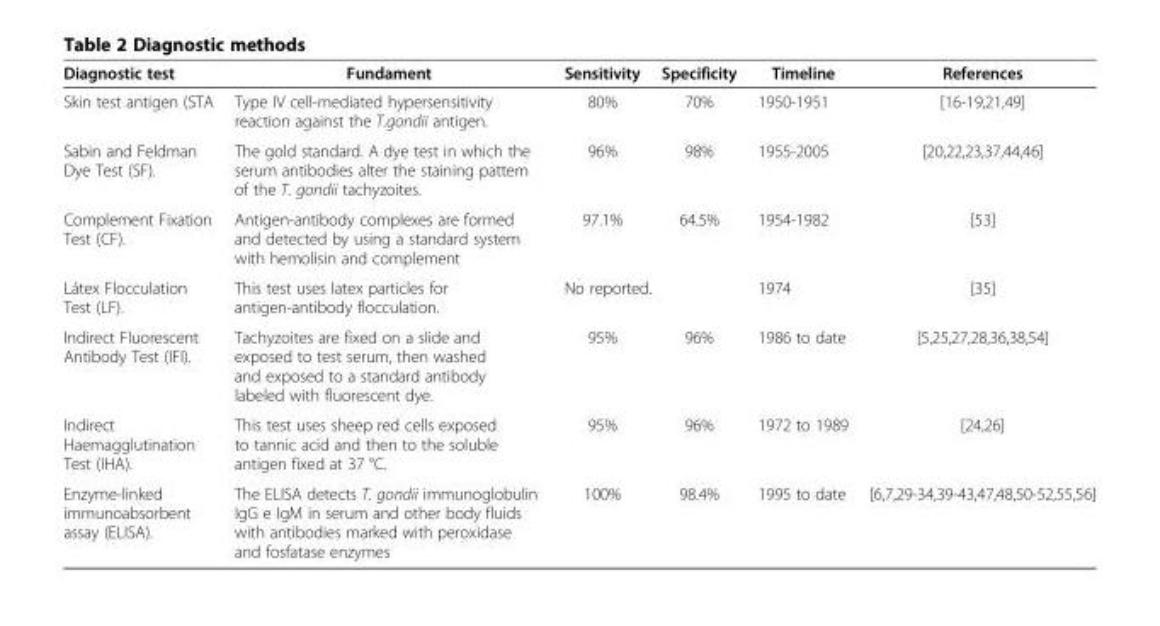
<table><thead><tr><td>Diagnostic test</td><td>Fundament</td><td>Sensitivity</td><td>Specificity</td><td>Timeline</td><td>References</td></tr></thead><tbody><tr><td>Skin test antigen (STA</td><td>Type IV cell-mediated hypersensitivity reaction against the T.gondii antigen.</td><td>80%</td><td>70%</td><td>1950-1951</td><td>[16-19,21,49]</td></tr><tr><td>Sabin and Feldman Dye Test (SF).</td><td>The gold standard. A dye test in which the serum antibodies alter the staining pattern of the T. gondii tachyzoites.</td><td>96%</td><td>98%</td><td>1955-2005</td><td>[20,22,23,37,44,46]</td></tr><tr><td>Complement Fixation Test (CF).</td><td>Antigen-antibody complexes are formed and detected by using a standard system with hemolisin and complement</td><td>97.1%</td><td>64.5%</td><td>1954-1982</td><td>[53]</td></tr><tr><td>Látex Flocculation Test (LF).</td><td>This test uses latex particles for antigen-antibody flocculation.</td><td colspan="2">No reported.</td><td>1974</td><td>[35]</td></tr><tr><td>Indirect Fluorescent Antibody Test (IFI).</td><td>Tachyzoites are fixed on a slide and exposed to test serum, then washed and exposed to a standard antibody labeled with fluorescent dye.</td><td>95%</td><td>96%</td><td>1986 to date</td><td>[5,25,27,28,36,38,54]</td></tr><tr><td>Indirect Haemagglutination Test (IHA).</td><td>This test uses sheep red cells exposed to tannic acid and then to the soluble antigen fixed at 37 °C.</td><td>95%</td><td>96%</td><td>1972 to 1989</td><td>[24,26]</td></tr><tr><td>Enzyme-linked immunoabsorbent assay (ELISA).</td><td>The ELISA detects T. gondii immunoglobulin IgG e IgM in serum and other body fluids with antibodies marked with peroxidase and fosfatase enzymes</td><td>100%</td><td>98.4%</td><td>1995 to date</td><td>[6,7,29-34,39-43,47,48,50-52,55,56]</td></tr></tbody></table>